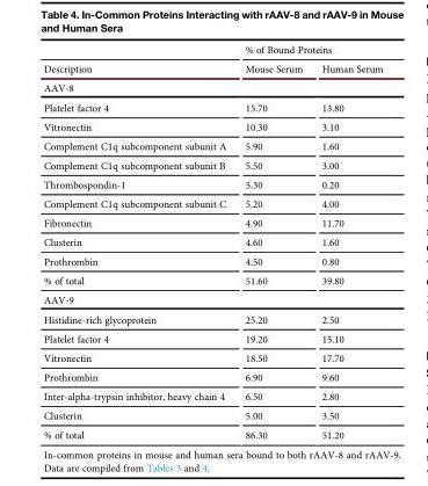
<table><thead><tr><td rowspan="2">Description</td><td colspan="2">% of Bound Proteins</td></tr><tr><td>Mouse Serum</td><td>Human Serum</td></tr></thead><tbody><tr><td colspan="3">AAV-8</td></tr><tr><td>Platelet factor 4</td><td>15.70</td><td>13.80</td></tr><tr><td>Vitronectin</td><td>10.30</td><td>3.10</td></tr><tr><td>Complement C1q subcomponent subunit A</td><td>5.90</td><td>1.60</td></tr><tr><td>Complement C1q subcomponent subunit B</td><td>5.50</td><td>3.00</td></tr><tr><td>Thrombospondin-1</td><td>5.30</td><td>0.20</td></tr><tr><td>Complement C1q subcomponent subunit C</td><td>5.20</td><td>4.00</td></tr><tr><td>Fibronectin</td><td>4.90</td><td>11.70</td></tr><tr><td>Clusterin</td><td>4.60</td><td>1.60</td></tr><tr><td>Prothrombin</td><td>4.50</td><td>0.80</td></tr><tr><td>% of total</td><td>51.60</td><td>39.80</td></tr><tr><td colspan="3">AAV-9</td></tr><tr><td>Histidine-rich glycoprotein</td><td>25.20</td><td>2.50</td></tr><tr><td>Platelet factor 4</td><td>19.20</td><td>15.10</td></tr><tr><td>Vitronectin</td><td>18.50</td><td>17.70</td></tr><tr><td>Prothrombin</td><td>6.90</td><td>9.60</td></tr><tr><td>Inter-alpha-trypsin inhibitor, heavy chain 4</td><td>6.50</td><td>2.80</td></tr><tr><td>Clusterin</td><td>5.00</td><td>3.50</td></tr><tr><td>% of total</td><td>86.30</td><td>51.20</td></tr></tbody></table>